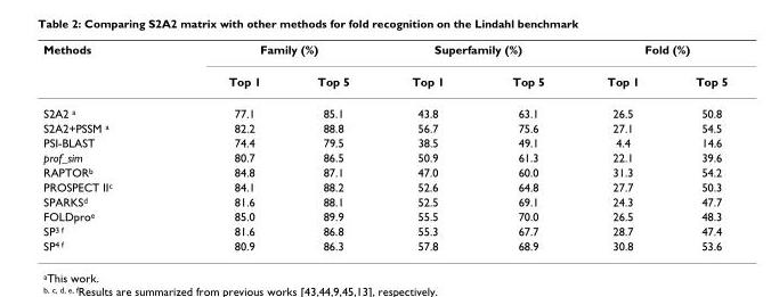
<table><thead><tr><td rowspan="2">Methods</td><td colspan="2">Family (%)</td><td colspan="2">Superfamily (%)</td><td colspan="2">Fold (%)</td></tr><tr><td>Top 1</td><td>Top 5</td><td>Top 1</td><td>Top 5</td><td>Top 1</td><td>Top 5</td></tr></thead><tbody><tr><td>S2A2 <sup>a</sup></td><td>77.1</td><td>85.1</td><td>43.8</td><td>63.1</td><td>26.5</td><td>50.8</td></tr><tr><td>S2A2+PSSM <sup>a</sup></td><td>82.2</td><td>88.8</td><td>56.7</td><td>75.6</td><td>27.1</td><td>54.5</td></tr><tr><td>PSI-BLAST</td><td>74.4</td><td>79.5</td><td>38.5</td><td>49.1</td><td>4.4</td><td>14.6</td></tr><tr><td>prof_sim</td><td>80.7</td><td>86.5</td><td>50.9</td><td>61.3</td><td>22.1</td><td>39.6</td></tr><tr><td>RAPTOR<sup>b</sup></td><td>84.8</td><td>87.1</td><td>47.0</td><td>60.0</td><td>31.3</td><td>54.2</td></tr><tr><td>PROSPECT II<sup>c</sup></td><td>84.1</td><td>88.2</td><td>52.6</td><td>64.8</td><td>27.7</td><td>50.3</td></tr><tr><td>SPARKS<sup>d</sup></td><td>81.6</td><td>88.1</td><td>52.5</td><td>69.1</td><td>24.3</td><td>47.7</td></tr><tr><td>FOLDpro<sup>e</sup></td><td>85.0</td><td>89.9</td><td>55.5</td><td>70.0</td><td>26.5</td><td>48.3</td></tr><tr><td>SP<sup>3 f</sup></td><td>81.6</td><td>86.8</td><td>55.3</td><td>67.7</td><td>28.7</td><td>47.4</td></tr><tr><td>SP<sup>4 f</sup></td><td>80.9</td><td>86.3</td><td>57.8</td><td>68.9</td><td>30.8</td><td>53.6</td></tr></tbody></table>